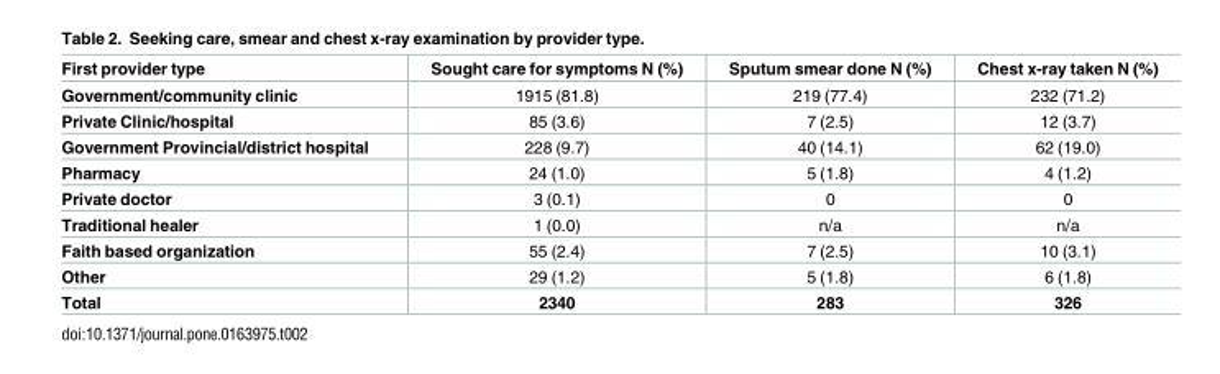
<table><thead><tr><td>First provider type</td><td>Sought care for symptoms N (%)</td><td>Sputum smear done N (%)</td><td>Chest x-ray taken N (%)</td></tr></thead><tbody><tr><td>Government/community clinic</td><td>1915 (81.8)</td><td>219 (77.4)</td><td>232 (71.2)</td></tr><tr><td>Private Clinic/hospital</td><td>85 (3.6)</td><td>7 (2.5)</td><td>12 (3.7)</td></tr><tr><td>Government Provincial/district hospital</td><td>228 (9.7)</td><td>40 (14.1)</td><td>62 (19.0)</td></tr><tr><td>Pharmacy</td><td>24 (1.0)</td><td>5 (1.8)</td><td>4 (1.2)</td></tr><tr><td>Private doctor</td><td>3 (0.1)</td><td>0</td><td>0</td></tr><tr><td>Traditional healer</td><td>1 (0.0)</td><td>n/a</td><td>n/a</td></tr><tr><td>Faith based organization</td><td>55 (2.4)</td><td>7 (2.5)</td><td>10 (3.1)</td></tr><tr><td>Other</td><td>29 (1.2)</td><td>5 (1.8)</td><td>6 (1.8)</td></tr><tr><td>Total</td><td>2340</td><td>283</td><td>326</td></tr></tbody></table>